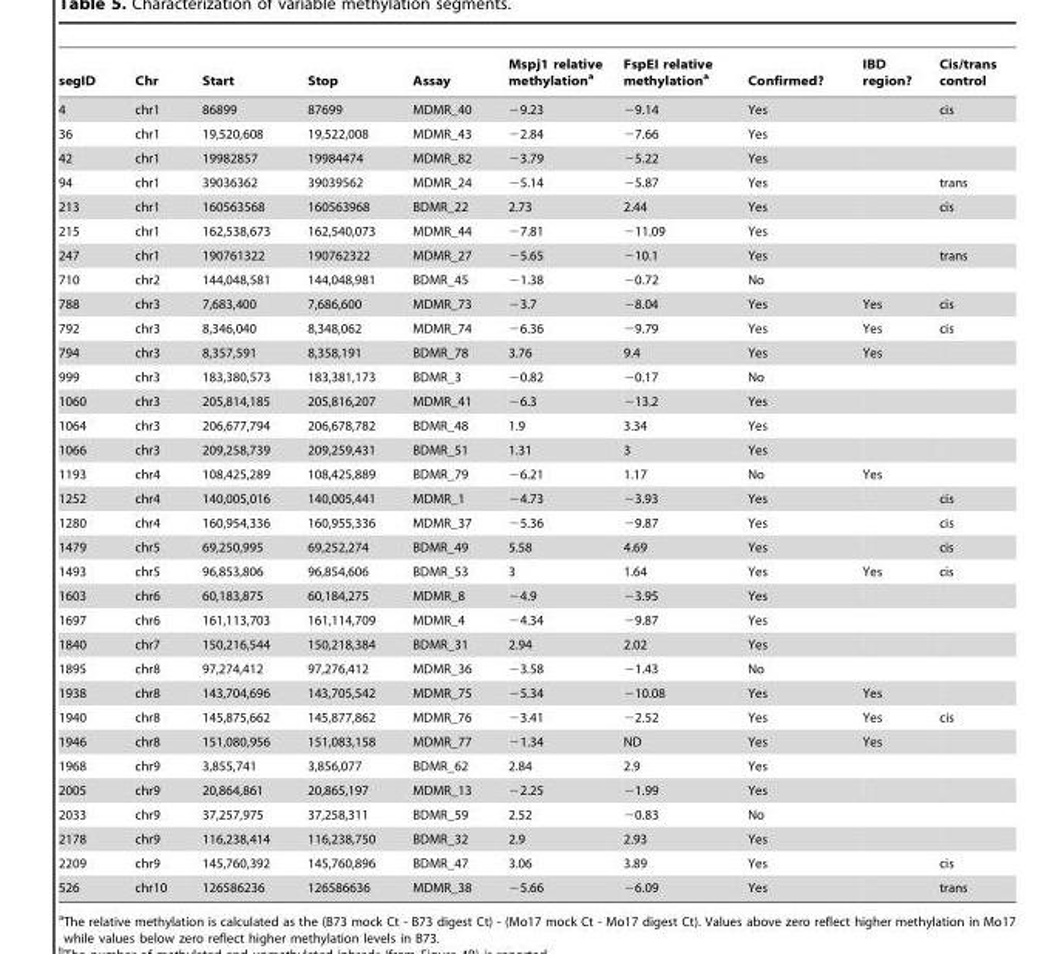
<table><thead><tr><td>segID</td><td>Chr</td><td>Start</td><td>Stop</td><td>Assay</td><td>Mspj1 relative methylation<sup>a</sup></td><td>FspEI relative methylation<sup>a</sup></td><td>Confirmed?</td><td>IBD region?</td><td>Cis/trans control</td></tr></thead><tbody><tr><td>4</td><td>chr1</td><td>86899</td><td>87699</td><td>MDMR_40</td><td>−9.23</td><td>−9.14</td><td>Yes</td><td></td><td>cis</td></tr><tr><td>36</td><td>chr1</td><td>19,520,608</td><td>19,522,008</td><td>MDMR_43</td><td>−2.84</td><td>−7.66</td><td>Yes</td><td></td><td></td></tr><tr><td>42</td><td>chr1</td><td>19982857</td><td>19984474</td><td>MDMR_82</td><td>−3.79</td><td>−5.22</td><td>Yes</td><td></td><td></td></tr><tr><td>94</td><td>chr1</td><td>39036362</td><td>39039562</td><td>MDMR_24</td><td>−5.14</td><td>−5.87</td><td>Yes</td><td></td><td>trans</td></tr><tr><td>213</td><td>chr1</td><td>160563568</td><td>160563968</td><td>BDMR_22</td><td>2.73</td><td>2.44</td><td>Yes</td><td></td><td>cis</td></tr><tr><td>215</td><td>chr1</td><td>162,538,673</td><td>162,540,073</td><td>MDMR_44</td><td>−7.81</td><td>−11.09</td><td>Yes</td><td></td><td></td></tr><tr><td>247</td><td>chr1</td><td>190761322</td><td>190762322</td><td>MDMR_27</td><td>−5.65</td><td>−10.1</td><td>Yes</td><td></td><td>trans</td></tr><tr><td>710</td><td>chr2</td><td>144,048,581</td><td>144,048,981</td><td>BDMR_45</td><td>−1.38</td><td>−0.72</td><td>No</td><td></td><td></td></tr><tr><td>788</td><td>chr3</td><td>7,683,400</td><td>7,686,600</td><td>MDMR_73</td><td>−3.7</td><td>−8.04</td><td>Yes</td><td>Yes</td><td>cis</td></tr><tr><td>792</td><td>chr3</td><td>8,346,040</td><td>8,348,062</td><td>MDMR_74</td><td>−6.36</td><td>−9.79</td><td>Yes</td><td>Yes</td><td>cis</td></tr><tr><td>794</td><td>chr3</td><td>8,357,591</td><td>8,358,191</td><td>BDMR_78</td><td>3.76</td><td>9.4</td><td>Yes</td><td>Yes</td><td></td></tr><tr><td>999</td><td>chr3</td><td>183,380,573</td><td>183,381,173</td><td>BDMR_3</td><td>−0.82</td><td>−0.17</td><td>No</td><td></td><td></td></tr><tr><td>1060</td><td>chr3</td><td>205,814,185</td><td>205,816,207</td><td>MDMR_41</td><td>−6.3</td><td>−13.2</td><td>Yes</td><td></td><td></td></tr><tr><td>1064</td><td>chr3</td><td>206,677,794</td><td>206,678,782</td><td>BDMR_48</td><td>1.9</td><td>3.34</td><td>Yes</td><td></td><td></td></tr><tr><td>1066</td><td>chr3</td><td>209,258,739</td><td>209,259,431</td><td>BDMR_51</td><td>1.31</td><td>3</td><td>Yes</td><td></td><td></td></tr><tr><td>1193</td><td>chr4</td><td>108,425,289</td><td>108,425,889</td><td>BDMR_79</td><td>−6.21</td><td>1.17</td><td>No</td><td>Yes</td><td></td></tr><tr><td>1252</td><td>chr4</td><td>140,005,016</td><td>140,005,441</td><td>MDMR_1</td><td>−4.73</td><td>−3.93</td><td>Yes</td><td></td><td>cis</td></tr><tr><td>1280</td><td>chr4</td><td>160,954,336</td><td>160,955,336</td><td>MDMR_37</td><td>−5.36</td><td>−9.87</td><td>Yes</td><td></td><td>cis</td></tr><tr><td>1479</td><td>chr5</td><td>69,250,995</td><td>69,252,274</td><td>BDMR_49</td><td>5.58</td><td>4.69</td><td>Yes</td><td></td><td>cis</td></tr><tr><td>1493</td><td>chr5</td><td>96,853,806</td><td>96,854,606</td><td>BDMR_53</td><td>3</td><td>1.64</td><td>Yes</td><td>Yes</td><td>cis</td></tr><tr><td>1603</td><td>chr6</td><td>60,183,875</td><td>60,184,275</td><td>MDMR_8</td><td>−4.9</td><td>−3.95</td><td>Yes</td><td></td><td></td></tr><tr><td>1697</td><td>chr6</td><td>161,113,703</td><td>161,114,709</td><td>MDMR_4</td><td>−4.34</td><td>−9.87</td><td>Yes</td><td></td><td></td></tr><tr><td>1840</td><td>chr7</td><td>150,216,544</td><td>150,218,384</td><td>BDMR_31</td><td>2.94</td><td>2.02</td><td>Yes</td><td></td><td></td></tr><tr><td>1895</td><td>chr8</td><td>97,274,412</td><td>97,276,412</td><td>MDMR_36</td><td>−3.58</td><td>−1.43</td><td>No</td><td></td><td></td></tr><tr><td>1938</td><td>chr8</td><td>143,704,696</td><td>143,705,542</td><td>MDMR_75</td><td>−5.34</td><td>−10.08</td><td>Yes</td><td>Yes</td><td></td></tr><tr><td>1940</td><td>chr8</td><td>145,875,662</td><td>145,877,862</td><td>MDMR_76</td><td>−3.41</td><td>−2.52</td><td>Yes</td><td>Yes</td><td>cis</td></tr><tr><td>1946</td><td>chr8</td><td>151,080,956</td><td>151,083,158</td><td>MDMR_77</td><td>−1.34</td><td>ND</td><td>Yes</td><td>Yes</td><td></td></tr><tr><td>1968</td><td>chr9</td><td>3,855,741</td><td>3,856,077</td><td>BDMR_62</td><td>2.84</td><td>2.9</td><td>Yes</td><td></td><td></td></tr><tr><td>2005</td><td>chr9</td><td>20,864,861</td><td>20,865,197</td><td>MDMR_13</td><td>−2.25</td><td>−1.99</td><td>Yes</td><td></td><td></td></tr><tr><td>2033</td><td>chr9</td><td>37,257,975</td><td>37,258,311</td><td>BDMR_59</td><td>2.52</td><td>−0.83</td><td>No</td><td></td><td></td></tr><tr><td>2178</td><td>chr9</td><td>116,238,414</td><td>116,238,750</td><td>BDMR_32</td><td>2.9</td><td>2.93</td><td>Yes</td><td></td><td></td></tr><tr><td>2209</td><td>chr9</td><td>145,760,392</td><td>145,760,896</td><td>BDMR_47</td><td>3.06</td><td>3.89</td><td>Yes</td><td></td><td>cis</td></tr><tr><td>526</td><td>chr10</td><td>126586236</td><td>126586636</td><td>MDMR_38</td><td>−5.66</td><td>−6.09</td><td>Yes</td><td></td><td>trans</td></tr></tbody></table>